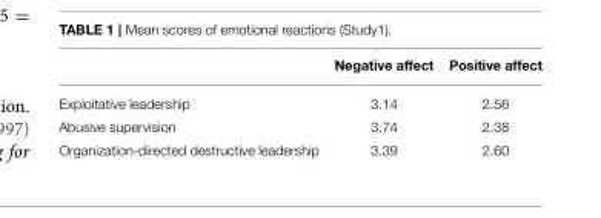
<table><thead><tr><td></td><td>Negative affect</td><td>Positive affect</td></tr></thead><tbody><tr><td>Exploitative leadership</td><td>3.14</td><td>2.56</td></tr><tr><td>Abusive supervision</td><td>3.74</td><td>2.38</td></tr><tr><td>Organization-directed destructive leadership</td><td>3.39</td><td>2.60</td></tr></tbody></table>